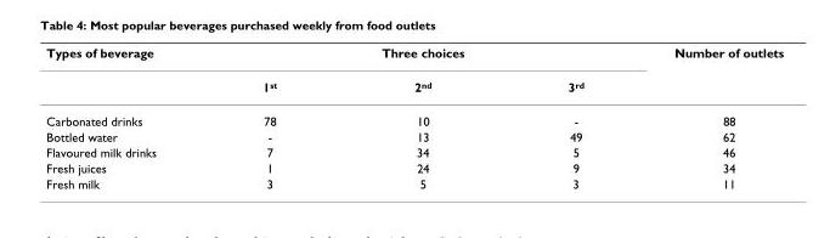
<table><thead><tr><td rowspan="2">Types of beverage</td><td colspan="3">Three choices</td><td rowspan="2">Number of outlets</td></tr><tr><td>1<sup>st</sup></td><td>2<sup>nd</sup></td><td>3<sup>rd</sup></td></tr></thead><tbody><tr><td>Carbonated drinks</td><td>78</td><td>10</td><td>-</td><td>88</td></tr><tr><td>Bottled water</td><td>-</td><td>13</td><td>49</td><td>62</td></tr><tr><td>Flavoured milk drinks</td><td>7</td><td>34</td><td>5</td><td>46</td></tr><tr><td>Fresh juices</td><td>1</td><td>24</td><td>9</td><td>34</td></tr><tr><td>Fresh milk</td><td>3</td><td>5</td><td>3</td><td>11</td></tr></tbody></table>